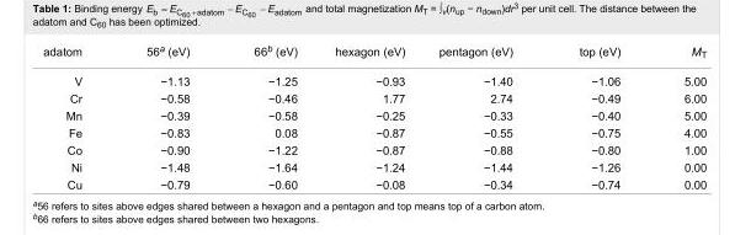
<table><tbody><tr><td>adatom</td><td>56<sup>a</sup> (eV)</td><td>66<sup>b</sup> (eV)</td><td>hexagon (eV)</td><td>pentagon (eV)</td><td>top (eV)</td><td>M<sub>T</sub></td></tr><tr><td>V</td><td>−1.13</td><td>−1.25</td><td>−0.93</td><td>−1.40</td><td>−1.06</td><td>5.00</td></tr><tr><td>Cr</td><td>−0.58</td><td>−0.46</td><td>1.77</td><td>2.74</td><td>−0.49</td><td>6.00</td></tr><tr><td>Mn</td><td>−0.39</td><td>−0.58</td><td>−0.25</td><td>−0.33</td><td>−0.40</td><td>5.00</td></tr><tr><td>Fe</td><td>−0.83</td><td>0.08</td><td>−0.87</td><td>−0.55</td><td>−0.75</td><td>4.00</td></tr><tr><td>Co</td><td>−0.90</td><td>−1.22</td><td>−0.87</td><td>−0.88</td><td>−0.80</td><td>1.00</td></tr><tr><td>Ni</td><td>−1.48</td><td>−1.64</td><td>−1.24</td><td>−1.44</td><td>−1.26</td><td>0.00</td></tr><tr><td>Cu</td><td>−0.79</td><td>−0.60</td><td>−0.08</td><td>−0.34</td><td>−0.74</td><td>0.00</td></tr></tbody></table>